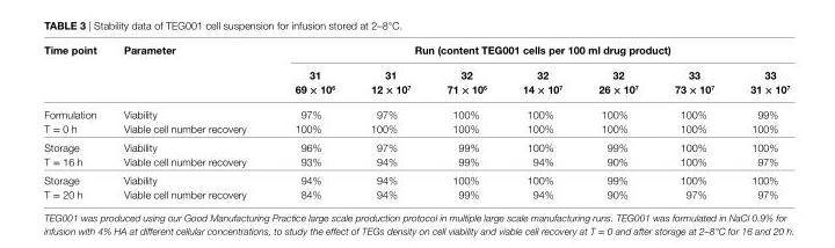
<table><thead><tr><td rowspan="2">Time point</td><td rowspan="2">Parameter</td><td colspan="7">run (content Teg001 cells per 100 ml drug product)</td></tr><tr><td>31 69 × 10<sup>6</sup></td><td>31 12 × 10<sup>7</sup></td><td>32 71 × 10<sup>6</sup></td><td>32 14 × 10<sup>7</sup></td><td>32 26 × 10<sup>7</sup></td><td>33 73 × 10<sup>7</sup></td><td>33 31 × 10<sup>7</sup></td></tr></thead><tbody><tr><td>Formulation</td><td>Viability</td><td>97%</td><td>97%</td><td>100%</td><td>100%</td><td>100%</td><td>100%</td><td>99%</td></tr><tr><td>T = 0 h</td><td>Viable cell number recovery</td><td>100%</td><td>100%</td><td>100%</td><td>100%</td><td>100%</td><td>100%</td><td>100%</td></tr><tr><td>Storage</td><td>Viability</td><td>96%</td><td>97%</td><td>99%</td><td>100%</td><td>99%</td><td>100%</td><td>100%</td></tr><tr><td>T = 16 h</td><td>Viable cell number recovery</td><td>93%</td><td>94%</td><td>99%</td><td>94%</td><td>90%</td><td>100%</td><td>97%</td></tr><tr><td>Storage</td><td>Viability</td><td>94%</td><td>94%</td><td>100%</td><td>100%</td><td>99%</td><td>100%</td><td>100%</td></tr><tr><td>T = 20 h</td><td>Viable cell number recovery</td><td>84%</td><td>94%</td><td>99%</td><td>94%</td><td>90%</td><td>97%</td><td>97%</td></tr></tbody></table>